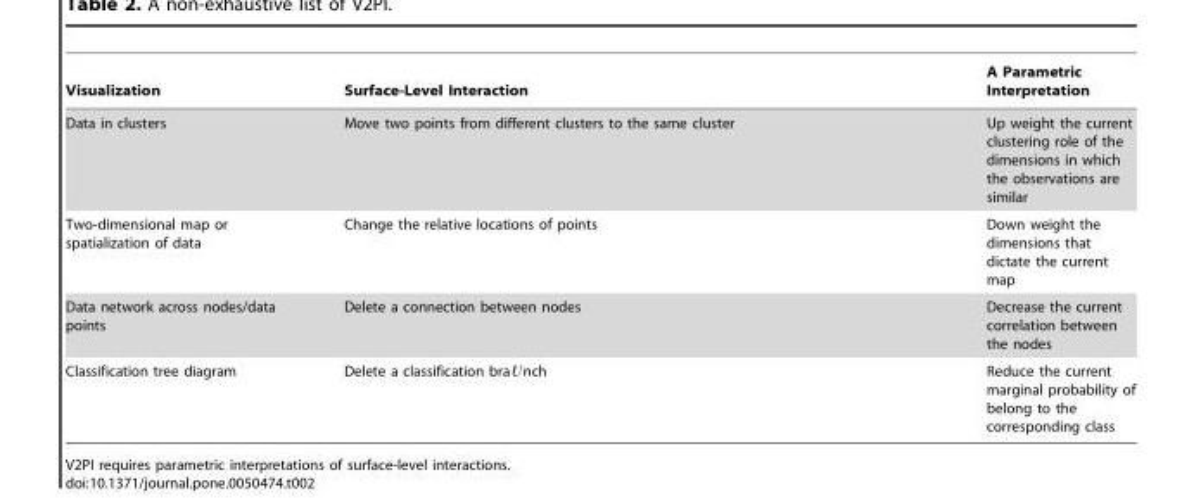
<table><thead><tr><td>Visualization</td><td>Surface-Level Interaction</td><td>A Parametric Interpretation</td></tr></thead><tbody><tr><td>Data in clusters</td><td>Move two points from different clusters to the same cluster</td><td>Up weight the current clustering role of the dimensions in which the observations are similar</td></tr><tr><td>Two-dimensional map or spatialization of data</td><td>Change the relative locations of points</td><td>Down weight the dimensions that dictate the current map</td></tr><tr><td>Data network across nodes/data points</td><td>Delete a connection between nodes</td><td>Decrease the current correlation between the nodes</td></tr><tr><td>Classification tree diagram</td><td>Delete a classification braUnch</td><td>Reduce the current marginal probability of belong to the corresponding class</td></tr></tbody></table>